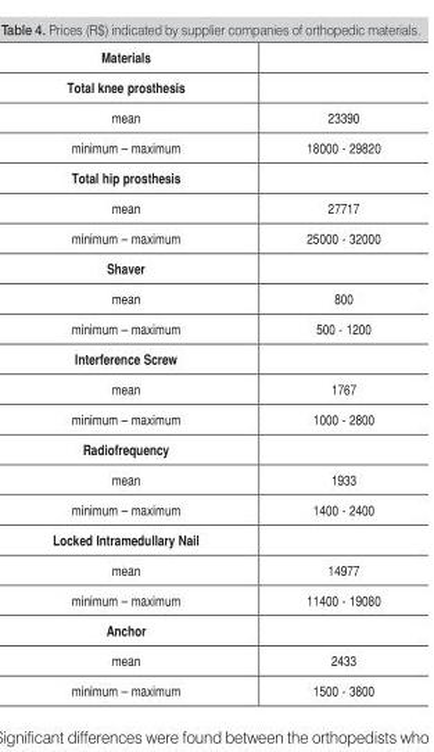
<table><thead><tr><td rowspan="2">Materials Total knee prosthesis</td><td rowspan="2"></td></tr><tr></tr></thead><tbody><tr><td>mean</td><td>23390</td></tr><tr><td>minimum – maximum</td><td>18000 - 29820</td></tr><tr><td colspan="2">Total hip prosthesis</td></tr><tr><td>mean</td><td>27717</td></tr><tr><td>minimum – maximum</td><td>25000 - 32000</td></tr><tr><td colspan="2">Shaver</td></tr><tr><td>mean</td><td>800</td></tr><tr><td>minimum – maximum</td><td>500 - 1200</td></tr><tr><td colspan="2">Interference Screw</td></tr><tr><td>mean</td><td>1767</td></tr><tr><td>minimum – maximum</td><td>1000 - 2800</td></tr><tr><td colspan="2">Radiofrequency</td></tr><tr><td>mean</td><td>1933</td></tr><tr><td>minimum – maximum</td><td>1400 - 2400</td></tr><tr><td colspan="2">Locked Intramedullary Nail</td></tr><tr><td>mean</td><td>14977</td></tr><tr><td>minimum – maximum</td><td>11400 - 19080</td></tr><tr><td colspan="2">Anchor</td></tr><tr><td>mean</td><td>2433</td></tr><tr><td>minimum – maximum</td><td>1500 - 3800</td></tr></tbody></table>